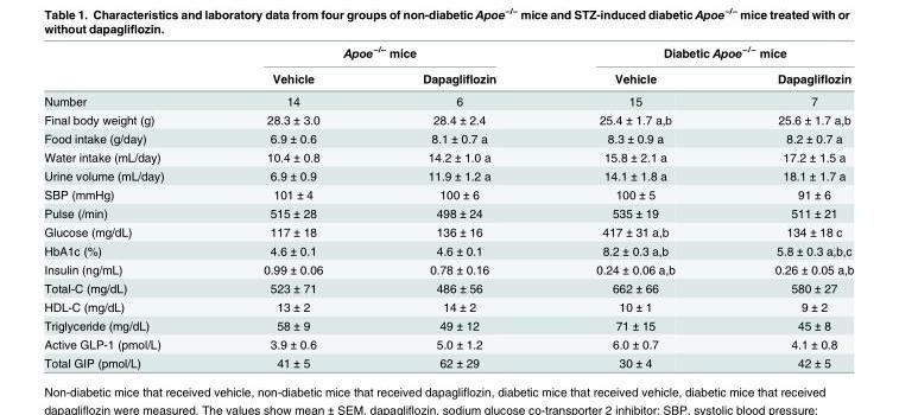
<table><thead><tr><td rowspan="2"></td><td colspan="2">Apoe<sup>−/−</sup> mice</td><td colspan="2">Diabetic Apoe<sup>−/−</sup> mice</td></tr><tr><td>Vehicle</td><td>Dapagliflozin</td><td>Vehicle</td><td>Dapagliflozin</td></tr></thead><tbody><tr><td>Number</td><td>14</td><td>6</td><td>15</td><td>7</td></tr><tr><td>Final body weight (g)</td><td>28.3 ± 3.0</td><td>28.4 ± 2.4</td><td>25.4 ± 1.7 a,b</td><td>25.6 ± 1.7 a,b</td></tr><tr><td>Food intake (g/day)</td><td>6.9 ± 0.6</td><td>8.1 ± 0.7 a</td><td>8.3 ± 0.9 a</td><td>8.2 ± 0.7 a</td></tr><tr><td>Water intake (mL/day)</td><td>10.4 ± 0.8</td><td>14.2 ± 1.0 a</td><td>15.8 ± 2.1 a</td><td>17.2 ± 1.5 a</td></tr><tr><td>Urine volume (mL/day)</td><td>6.9 ± 0.9</td><td>11.9 ± 1.2 a</td><td>14.1 ± 1.8 a</td><td>18.1 ± 1.7 a</td></tr><tr><td>SBP (mmHg)</td><td>101 ± 4</td><td>100 ± 6</td><td>100 ± 5</td><td>91 ± 6</td></tr><tr><td>Pulse (/min)</td><td>515 ± 28</td><td>498 ± 24</td><td>535 ± 19</td><td>511 ± 21</td></tr><tr><td>Glucose (mg/dL)</td><td>117 ± 18</td><td>136 ± 16</td><td>417 ± 31 a,b</td><td>134 ± 18 c</td></tr><tr><td>HbA1c (%)</td><td>4.6 ± 0.1</td><td>4.6 ± 0.1</td><td>8.2 ± 0.3 a,b</td><td>5.8 ± 0.3 a,b,c</td></tr><tr><td>Insulin (ng/mL)</td><td>0.99 ± 0.06</td><td>0.78 ± 0.16</td><td>0.24 ± 0.06 a,b</td><td>0.26 ± 0.05 a,b</td></tr><tr><td>Total-C (mg/dL)</td><td>523 ± 71</td><td>486 ± 56</td><td>662 ± 66</td><td>580 ± 27</td></tr><tr><td>HDL-C (mg/dL)</td><td>13 ± 2</td><td>14 ± 2</td><td>10 ± 1</td><td>9 ± 2</td></tr><tr><td>Triglyceride (mg/dL)</td><td>58 ± 9</td><td>49 ± 12</td><td>71 ± 15</td><td>45 ± 8</td></tr><tr><td>Active GLP-1 (pmol/L)</td><td>3.9 ± 0.6</td><td>5.0 ± 1.2</td><td>6.0 ± 0.7</td><td>4.1 ± 0.8</td></tr><tr><td>Total GIP (pmol/L)</td><td>41 ± 5</td><td>62 ± 29</td><td>30 ± 4</td><td>42 ± 5</td></tr></tbody></table>